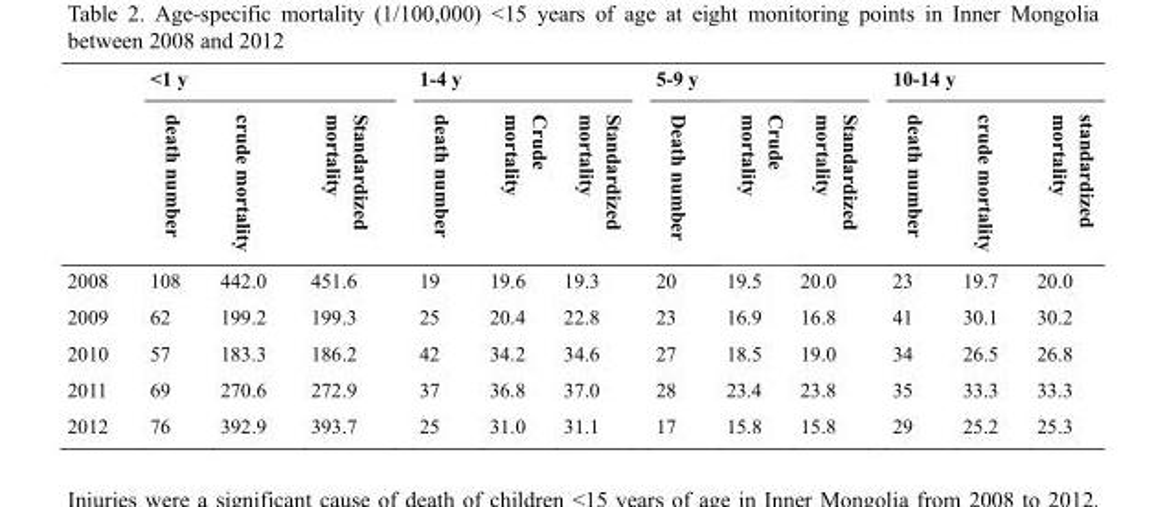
<table><thead><tr><td rowspan="2"></td><td colspan="3">&lt;1 y</td><td colspan="3">1-4 y</td><td colspan="3">5-9 y</td><td colspan="3">10-14 y</td></tr><tr><td>death number</td><td>crude mortality</td><td>Standardized mortality</td><td>death number</td><td>Crude mortality</td><td>Standardized mortality</td><td>Death number</td><td>Crude mortality</td><td>Standardized mortality</td><td>death number</td><td>crude mortality</td><td>standardized mortality</td></tr></thead><tbody><tr><td>2008</td><td>108</td><td>442.0</td><td>451.6</td><td>19</td><td>19.6</td><td>19.3</td><td>20</td><td>19.5</td><td>20.0</td><td>23</td><td>19.7</td><td>20.0</td></tr><tr><td>2009</td><td>62</td><td>199.2</td><td>199.3</td><td>25</td><td>20.4</td><td>22.8</td><td>23</td><td>16.9</td><td>16.8</td><td>41</td><td>30.1</td><td>30.2</td></tr><tr><td>2010</td><td>57</td><td>183.3</td><td>186.2</td><td>42</td><td>34.2</td><td>34.6</td><td>27</td><td>18.5</td><td>19.0</td><td>34</td><td>26.5</td><td>26.8</td></tr><tr><td>2011</td><td>69</td><td>270.6</td><td>272.9</td><td>37</td><td>36.8</td><td>37.0</td><td>28</td><td>23.4</td><td>23.8</td><td>35</td><td>33.3</td><td>33.3</td></tr><tr><td>2012</td><td>76</td><td>392.9</td><td>393.7</td><td>25</td><td>31.0</td><td>31.1</td><td>17</td><td>15.8</td><td>15.8</td><td>29</td><td>25.2</td><td>25.3</td></tr></tbody></table>